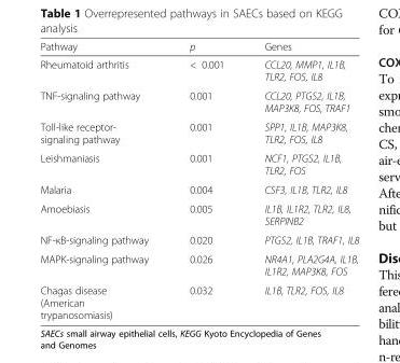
<table><thead><tr><td>Pathway</td><td>p</td><td>Genes</td></tr></thead><tbody><tr><td>Rheumatoid arthritis</td><td>&lt; 0.001</td><td>CCL20, MMP1, IL1B, TLR2, FOS, IL8</td></tr><tr><td>TNF-signaling pathway</td><td>0.001</td><td>CCL20, PTGS2, IL1B, MAP3K8, FOS, TRAF1</td></tr><tr><td>Toll-like receptor- signaling pathway</td><td>0.001</td><td>SPP1, IL1B, MAP3K8, TLR2, FOS, IL8</td></tr><tr><td>Leishmaniasis</td><td>0.001</td><td>NCF1, PTGS2, IL1B, TLR2, FOS</td></tr><tr><td>Malaria</td><td>0.004</td><td>CSF3, IL1B, TLR2, IL8</td></tr><tr><td>Amoebiasis</td><td>0.005</td><td>IL1B, IL1R2, TLR2, IL8, SERPINB2</td></tr><tr><td>NF-κB-signaling pathway</td><td>0.020</td><td>PTGS2, IL1B, TRAF1, IL8</td></tr><tr><td>MAPK-signaling pathway</td><td>0.026</td><td>NR4A1, PLA2G4A, IL1B, IL1R2, MAP3K8, FOS</td></tr><tr><td>Chagas disease (American trypanosomiasis)</td><td>0.032</td><td>IL1B, TLR2, FOS, IL8</td></tr></tbody></table>